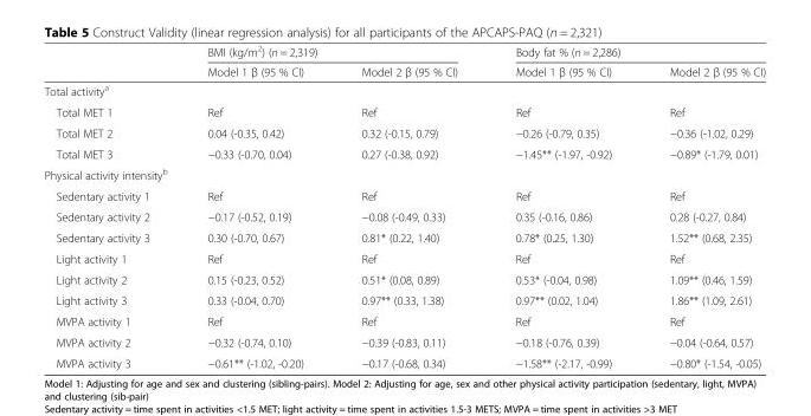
<table><thead><tr><td rowspan="2"></td><td colspan="2">BMI (kg/m<sup>2</sup>) (n = 2,319)</td><td colspan="2">Body fat % (n = 2,286)</td></tr><tr><td>Model 1 β (95 % CI)</td><td>Model 2 β (95 % CI)</td><td>Model 1 β (95 % CI)</td><td>Model 2 β (95 % CI)</td></tr></thead><tbody><tr><td colspan="5">Total activity<sup>a</sup></td></tr><tr><td>Total MET 1</td><td>Ref</td><td>Ref</td><td>Ref</td><td>Ref</td></tr><tr><td>Total MET 2</td><td>0.04 (-0.35, 0.42)</td><td>0.32 (-0.15, 0.79)</td><td>−0.26 (-0.79, 0.35)</td><td>−0.36 (-1.02, 0.29)</td></tr><tr><td>Total MET 3</td><td>−0.33 (-0.70, 0.04)</td><td>0.27 (-0.38, 0.92)</td><td>−1.45** (-1.97, -0.92)</td><td>−0.89* (-1.79, 0.01)</td></tr><tr><td colspan="5">Physical activity intensity<sup>b</sup></td></tr><tr><td>Sedentary activity 1</td><td>Ref</td><td>Ref</td><td>Ref</td><td>Ref</td></tr><tr><td>Sedentary activity 2</td><td>−0.17 (-0.52, 0.19)</td><td>−0.08 (-0.49, 0.33)</td><td>0.35 (-0.16, 0.86)</td><td>0.28 (-0.27, 0.84)</td></tr><tr><td>Sedentary activity 3</td><td>0.30 (-0.70, 0.67)</td><td>0.81* (0.22, 1.40)</td><td>0.78* (0.25, 1.30)</td><td>1.52** (0.68, 2.35)</td></tr><tr><td>Light activity 1</td><td>Ref</td><td>Ref</td><td>Ref</td><td>Ref</td></tr><tr><td>Light activity 2</td><td>0.15 (-0.23, 0.52)</td><td>0.51* (0.08, 0.89)</td><td>0.53* (-0.04, 0.98)</td><td>1.09** (0.46, 1.59)</td></tr><tr><td>Light activity 3</td><td>0.33 (-0.04, 0.70)</td><td>0.97** (0.33, 1.38)</td><td>0.97** (0.02, 1.04)</td><td>1.86** (1.09, 2.61)</td></tr><tr><td>MVPA activity 1</td><td>Ref</td><td>Ref</td><td>Ref</td><td>Ref</td></tr><tr><td>MVPA activity 2</td><td>−0.32 (-0.74, 0.10)</td><td>−0.39 (-0.83, 0.11)</td><td>−0.18 (-0.76, 0.39)</td><td>−0.04 (-0.64, 0.57)</td></tr><tr><td>MVPA activity 3</td><td>−0.61** (-1.02, -0.20)</td><td>−0.17 (-0.68, 0.34)</td><td>−1.58** (-2.17, -0.99)</td><td>−0.80* (-1.54, -0.05)</td></tr></tbody></table>